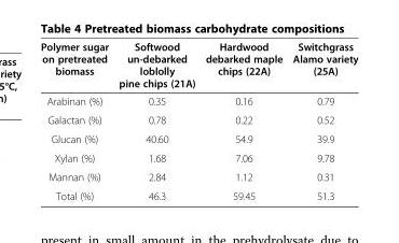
<table><thead><tr><td>Polymer sugar on pretreated biomass</td><td>Softwood un-debarked loblolly pine chips (21A)</td><td>Hardwood debarked maple chips (22A)</td><td>Switchgrass Alamo variety (25A)</td></tr></thead><tbody><tr><td>Arabinan (%)</td><td>0.35</td><td>0.16</td><td>0.79</td></tr><tr><td>Galactan (%)</td><td>0.78</td><td>0.22</td><td>0.52</td></tr><tr><td>Glucan (%)</td><td>40.60</td><td>54.9</td><td>39.9</td></tr><tr><td>Xylan (%)</td><td>1.68</td><td>7.06</td><td>9.78</td></tr><tr><td>Mannan (%)</td><td>2.84</td><td>1.12</td><td>0.31</td></tr><tr><td>Total (%)</td><td>46.3</td><td>59.45</td><td>51.3</td></tr></tbody></table>